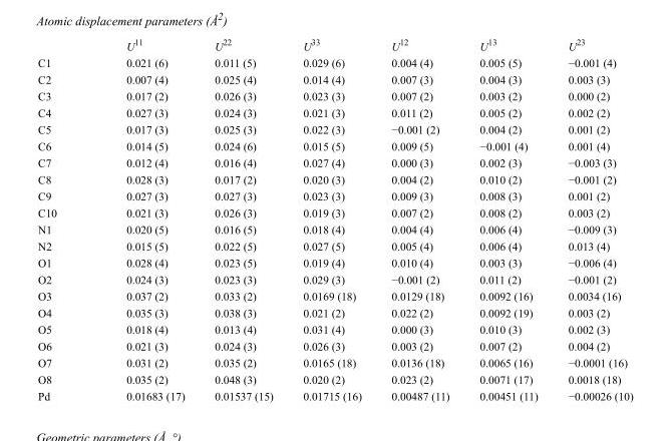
<table><thead><tr><td></td><td>U<sup>11</sup></td><td>U<sup>22</sup></td><td>U<sup>33</sup></td><td>U<sup>12</sup></td><td>U<sup>13</sup></td><td>U<sup>23</sup></td></tr></thead><tbody><tr><td>C1</td><td>0.021 (6)</td><td>0.011 (5)</td><td>0.029 (6)</td><td>0.004 (4)</td><td>0.005 (5)</td><td>−0.001 (4)</td></tr><tr><td>C2</td><td>0.007 (4)</td><td>0.025 (4)</td><td>0.014 (4)</td><td>0.007 (3)</td><td>0.004 (3)</td><td>0.003 (3)</td></tr><tr><td>C3</td><td>0.017 (2)</td><td>0.026 (3)</td><td>0.023 (3)</td><td>0.007 (2)</td><td>0.003 (2)</td><td>0.000 (2)</td></tr><tr><td>C4</td><td>0.027 (3)</td><td>0.024 (3)</td><td>0.021 (3)</td><td>0.011 (2)</td><td>0.005 (2)</td><td>0.002 (2)</td></tr><tr><td>C5</td><td>0.017 (3)</td><td>0.025 (3)</td><td>0.022 (3)</td><td>−0.001 (2)</td><td>0.004 (2)</td><td>0.001 (2)</td></tr><tr><td>C6</td><td>0.014 (5)</td><td>0.024 (6)</td><td>0.015 (5)</td><td>0.009 (5)</td><td>−0.001 (4)</td><td>0.001 (4)</td></tr><tr><td>C7</td><td>0.012 (4)</td><td>0.016 (4)</td><td>0.027 (4)</td><td>0.000 (3)</td><td>0.002 (3)</td><td>−0.003 (3)</td></tr><tr><td>C8</td><td>0.028 (3)</td><td>0.017 (2)</td><td>0.020 (3)</td><td>0.004 (2)</td><td>0.010 (2)</td><td>−0.001 (2)</td></tr><tr><td>C9</td><td>0.027 (3)</td><td>0.027 (3)</td><td>0.023 (3)</td><td>0.009 (3)</td><td>0.008 (3)</td><td>0.001 (2)</td></tr><tr><td>C10</td><td>0.021 (3)</td><td>0.026 (3)</td><td>0.019 (3)</td><td>0.007 (2)</td><td>0.008 (2)</td><td>0.003 (2)</td></tr><tr><td>N1</td><td>0.020 (5)</td><td>0.016 (5)</td><td>0.018 (4)</td><td>0.004 (4)</td><td>0.006 (4)</td><td>−0.009 (3)</td></tr><tr><td>N2</td><td>0.015 (5)</td><td>0.022 (5)</td><td>0.027 (5)</td><td>0.005 (4)</td><td>0.006 (4)</td><td>0.013 (4)</td></tr><tr><td>O1</td><td>0.028 (4)</td><td>0.023 (5)</td><td>0.019 (4)</td><td>0.010 (4)</td><td>0.003 (3)</td><td>−0.006 (4)</td></tr><tr><td>O2</td><td>0.024 (3)</td><td>0.023 (3)</td><td>0.029 (3)</td><td>−0.001 (2)</td><td>0.011 (2)</td><td>−0.001 (2)</td></tr><tr><td>O3</td><td>0.037 (2)</td><td>0.033 (2)</td><td>0.0169 (18)</td><td>0.0129 (18)</td><td>0.0092 (16)</td><td>0.0034 (16)</td></tr><tr><td>O4</td><td>0.035 (3)</td><td>0.038 (3)</td><td>0.021 (2)</td><td>0.022 (2)</td><td>0.0092 (19)</td><td>0.003 (2)</td></tr><tr><td>O5</td><td>0.018 (4)</td><td>0.013 (4)</td><td>0.031 (4)</td><td>0.000 (3)</td><td>0.010 (3)</td><td>0.002 (3)</td></tr><tr><td>O6</td><td>0.021 (3)</td><td>0.024 (3)</td><td>0.026 (3)</td><td>0.003 (2)</td><td>0.007 (2)</td><td>0.004 (2)</td></tr><tr><td>O7</td><td>0.031 (2)</td><td>0.035 (2)</td><td>0.0165 (18)</td><td>0.0136 (18)</td><td>0.0065 (16)</td><td>−0.0001 (16)</td></tr><tr><td>O8</td><td>0.035 (2)</td><td>0.048 (3)</td><td>0.020 (2)</td><td>0.023 (2)</td><td>0.0071 (17)</td><td>0.0018 (18)</td></tr><tr><td>Pd</td><td>0.01683 (17)</td><td>0.01537 (15)</td><td>0.01715 (16)</td><td>0.00487 (11)</td><td>0.00451 (11)</td><td>−0.00026 (10)</td></tr></tbody></table>